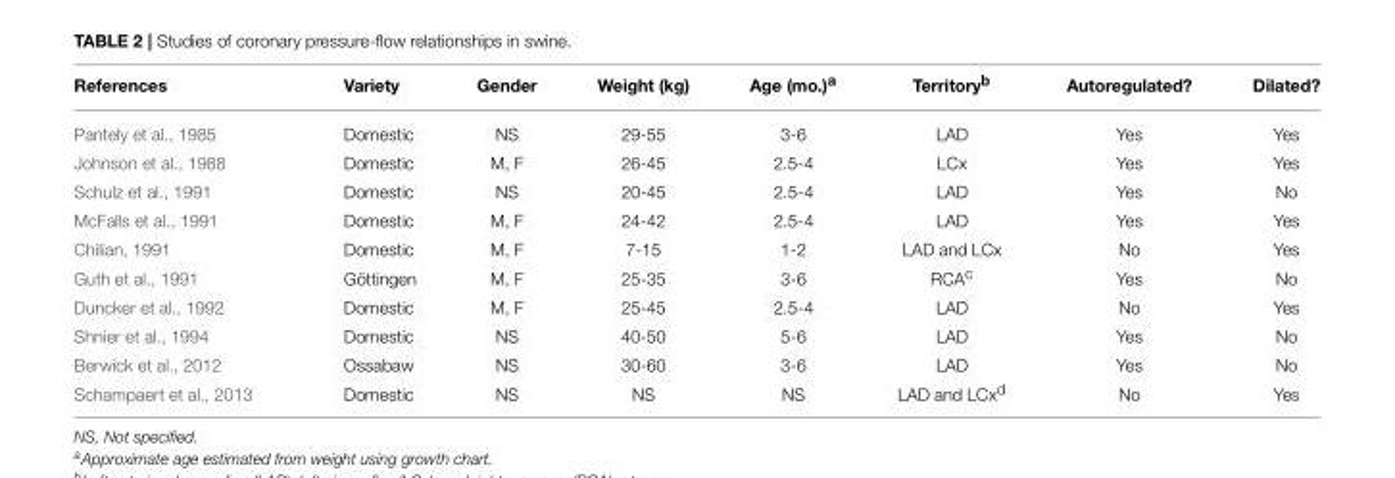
<table><thead><tr><td>References</td><td>Variety</td><td>Gender</td><td>Weight (kg)</td><td>Age (mo.)<sup>a</sup></td><td>Territory<sup>b</sup></td><td>Autoregulated?</td><td>Dilated?</td></tr></thead><tbody><tr><td>Pantely et al., 1985</td><td>Domestic</td><td>NS</td><td>29-55</td><td>3-6</td><td>LAD</td><td>Yes</td><td>Yes</td></tr><tr><td>Johnson et al., 1988</td><td>Domestic</td><td>M, F</td><td>26-45</td><td>2.5-4</td><td>LCx</td><td>Yes</td><td>Yes</td></tr><tr><td>Schulz et al., 1991</td><td>Domestic</td><td>NS</td><td>20-45</td><td>2.5-4</td><td>LAD</td><td>Yes</td><td>No</td></tr><tr><td>McFalls et al., 1991</td><td>Domestic</td><td>M, F</td><td>24-42</td><td>2.5-4</td><td>LAD</td><td>Yes</td><td>Yes</td></tr><tr><td>Chilian, 1991</td><td>Domestic</td><td>M, F</td><td>7-15</td><td>1-2</td><td>LAD and LCx</td><td>No</td><td>Yes</td></tr><tr><td>Guth et al., 1991</td><td>Göttingen</td><td>M, F</td><td>25-35</td><td>3-6</td><td>RCA<sup>c</sup></td><td>Yes</td><td>No</td></tr><tr><td>Duncker et al., 1992</td><td>Domestic</td><td>M, F</td><td>25-45</td><td>2.5-4</td><td>LAD</td><td>No</td><td>Yes</td></tr><tr><td>Shnier et al., 1994</td><td>Domestic</td><td>NS</td><td>40-50</td><td>5-6</td><td>LAD</td><td>Yes</td><td>No</td></tr><tr><td>Berwick et al., 2012</td><td>Ossabaw</td><td>NS</td><td>30-60</td><td>3-6</td><td>LAD</td><td>Yes</td><td>No</td></tr><tr><td>Schampaert et al., 2013</td><td>Domestic</td><td>NS</td><td>NS</td><td>NS</td><td>LAD and LCx<sup>d</sup></td><td>No</td><td>Yes</td></tr></tbody></table>